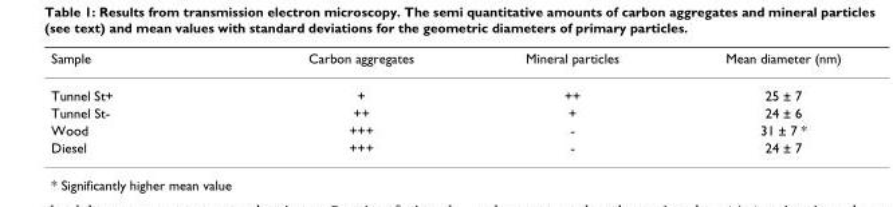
<table><thead><tr><td>Sample</td><td>Carbon aggregates</td><td>Mineral particles</td><td>Mean diameter (nm)</td></tr></thead><tbody><tr><td>Tunnel St+</td><td>+</td><td>++</td><td>25 ± 7</td></tr><tr><td>Tunnel St-</td><td>++</td><td>+</td><td>24 ± 6</td></tr><tr><td>Wood</td><td>+++</td><td>-</td><td>31 ± 7 *</td></tr><tr><td>Diesel</td><td>+++</td><td>-</td><td>24 ± 7</td></tr></tbody></table>